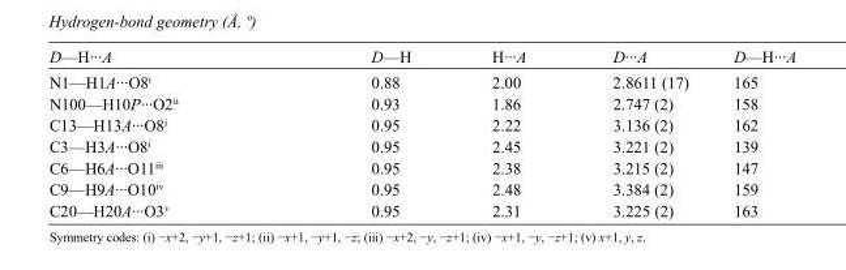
<table><tbody><tr><td>D—H···A</td><td>D—H</td><td>H···A</td><td>D···A</td><td>D—H···A</td></tr><tr><td>N1—H1A···O8<sup>i</sup></td><td>0.88</td><td>2.00</td><td>2.8611 (17)</td><td>165</td></tr><tr><td>N100—H10P···O2<sup>ii</sup></td><td>0.93</td><td>1.86</td><td>2.747 (2)</td><td>158</td></tr><tr><td>C13—H13A···O8<sup>i</sup></td><td>0.95</td><td>2.22</td><td>3.136 (2)</td><td>162</td></tr><tr><td>C3—H3A···O8<sup>i</sup></td><td>0.95</td><td>2.45</td><td>3.221 (2)</td><td>139</td></tr><tr><td>C6—H6A···O11<sup>iii</sup></td><td>0.95</td><td>2.38</td><td>3.215 (2)</td><td>147</td></tr><tr><td>C9—H9A···O10<sup>iv</sup></td><td>0.95</td><td>2.48</td><td>3.384 (2)</td><td>159</td></tr><tr><td>C20—H20A···O3<sup>v</sup></td><td>0.95</td><td>2.31</td><td>3.225 (2)</td><td>163</td></tr></tbody></table>